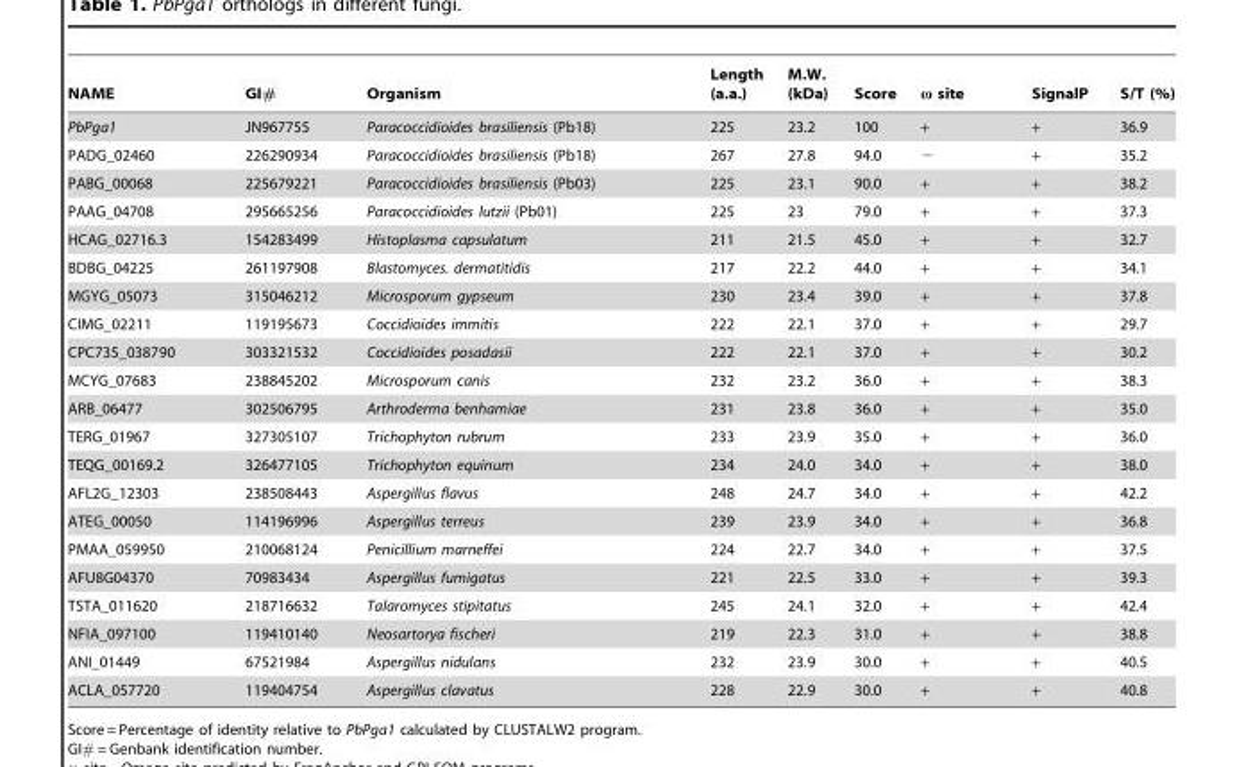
<table><thead><tr><td>NAME</td><td>GI#</td><td>Organism</td><td>Length (a.a.)</td><td>M.W. (kDa)</td><td>Score</td><td>ω site</td><td>SignalP</td><td>S/T (%)</td></tr></thead><tbody><tr><td>PbPga1</td><td>JN967755</td><td>Paracoccidioides brasiliensis (Pb18)</td><td>225</td><td>23.2</td><td>100</td><td>+</td><td>+</td><td>36.9</td></tr><tr><td>PADG_02460</td><td>226290934</td><td>Paracoccidioides brasiliensis (Pb18)</td><td>267</td><td>27.8</td><td>94.0</td><td>−</td><td>+</td><td>35.2</td></tr><tr><td>PABG_00068</td><td>225679221</td><td>Paracoccidioides brasiliensis (Pb03)</td><td>225</td><td>23.1</td><td>90.0</td><td>+</td><td>+</td><td>38.2</td></tr><tr><td>PAAG_04708</td><td>295665256</td><td>Paracoccidioides lutzii (Pb01)</td><td>225</td><td>23</td><td>79.0</td><td>+</td><td>+</td><td>37.3</td></tr><tr><td>HCAG_02716.3</td><td>154283499</td><td>Histoplasma capsulatum</td><td>211</td><td>21.5</td><td>45.0</td><td>+</td><td>+</td><td>32.7</td></tr><tr><td>BDBG_04225</td><td>261197908</td><td>Blastomyces. dermatitidis</td><td>217</td><td>22.2</td><td>44.0</td><td>+</td><td>+</td><td>34.1</td></tr><tr><td>MGYG_05073</td><td>315046212</td><td>Microsporum gypseum</td><td>230</td><td>23.4</td><td>39.0</td><td>+</td><td>+</td><td>37.8</td></tr><tr><td>CIMG_02211</td><td>119195673</td><td>Coccidioides immitis</td><td>222</td><td>22.1</td><td>37.0</td><td>+</td><td>+</td><td>29.7</td></tr><tr><td>CPC735_038790</td><td>303321532</td><td>Coccidioides posadasii</td><td>222</td><td>22.1</td><td>37.0</td><td>+</td><td>+</td><td>30.2</td></tr><tr><td>MCYG_07683</td><td>238845202</td><td>Microsporum canis</td><td>232</td><td>23.2</td><td>36.0</td><td>+</td><td>+</td><td>38.3</td></tr><tr><td>ARB_06477</td><td>302506795</td><td>Arthroderma benhamiae</td><td>231</td><td>23.8</td><td>36.0</td><td>+</td><td>+</td><td>35.0</td></tr><tr><td>TERG_01967</td><td>327305107</td><td>Trichophyton rubrum</td><td>233</td><td>23.9</td><td>35.0</td><td>+</td><td>+</td><td>36.0</td></tr><tr><td>TEQG_00169.2</td><td>326477105</td><td>Trichophyton equinum</td><td>234</td><td>24.0</td><td>34.0</td><td>+</td><td>+</td><td>38.0</td></tr><tr><td>AFL2G_12303</td><td>238508443</td><td>Aspergillus flavus</td><td>248</td><td>24.7</td><td>34.0</td><td>+</td><td>+</td><td>42.2</td></tr><tr><td>ATEG_00050</td><td>114196996</td><td>Aspergillus terreus</td><td>239</td><td>23.9</td><td>34.0</td><td>+</td><td>+</td><td>36.8</td></tr><tr><td>PMAA_059950</td><td>210068124</td><td>Penicillium marneffei</td><td>224</td><td>22.7</td><td>34.0</td><td>+</td><td>+</td><td>37.5</td></tr><tr><td>AFU8G04370</td><td>70983434</td><td>Aspergillus fumigatus</td><td>221</td><td>22.5</td><td>33.0</td><td>+</td><td>+</td><td>39.3</td></tr><tr><td>TSTA_011620</td><td>218716632</td><td>Talaromyces stipitatus</td><td>245</td><td>24.1</td><td>32.0</td><td>+</td><td>+</td><td>42.4</td></tr><tr><td>NFIA_097100</td><td>119410140</td><td>Neosartorya fischeri</td><td>219</td><td>22.3</td><td>31.0</td><td>+</td><td>+</td><td>38.8</td></tr><tr><td>ANI_01449</td><td>67521984</td><td>Aspergillus nidulans</td><td>232</td><td>23.9</td><td>30.0</td><td>+</td><td>+</td><td>40.5</td></tr><tr><td>ACLA_057720</td><td>119404754</td><td>Aspergillus clavatus</td><td>228</td><td>22.9</td><td>30.0</td><td>+</td><td>+</td><td>40.8</td></tr></tbody></table>